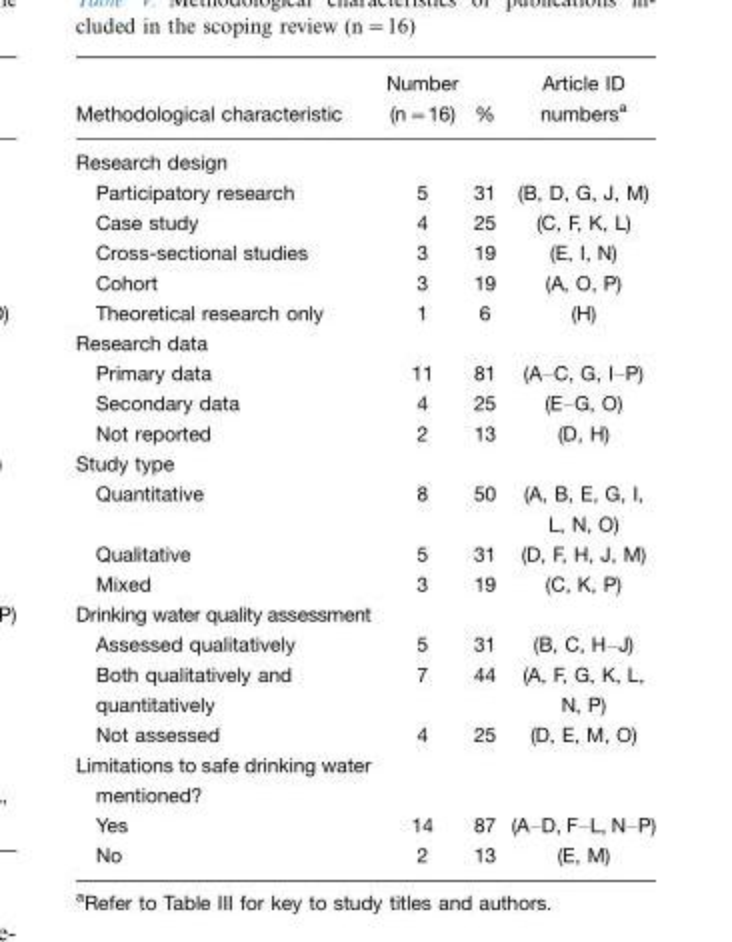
<table><thead><tr><td>Methodological characteristic</td><td>Number (n=16)</td><td>%</td><td>Article ID numbers<sup>a</sup></td></tr></thead><tbody><tr><td colspan="4">Research design</td></tr><tr><td>Participatory research</td><td>5</td><td>31</td><td>(B, D, G, J, M)</td></tr><tr><td>Case study</td><td>4</td><td>25</td><td>(C, F, K, L)</td></tr><tr><td>Cross-sectional studies</td><td>3</td><td>19</td><td>(E, I, N)</td></tr><tr><td>Cohort</td><td>3</td><td>19</td><td>(A, O, P)</td></tr><tr><td>Theoretical research only</td><td>1</td><td>6</td><td>(H)</td></tr><tr><td colspan="4">Research data</td></tr><tr><td>Primary data</td><td>11</td><td>81</td><td>(A–C, G, I–P)</td></tr><tr><td>Secondary data</td><td>4</td><td>25</td><td>(E–G, O)</td></tr><tr><td>Not reported</td><td>2</td><td>13</td><td>(D, H)</td></tr><tr><td colspan="4">Study type</td></tr><tr><td>Quantitative</td><td>8</td><td>50</td><td>(A, B, E, G, I, L, N, O)</td></tr><tr><td>Qualitative</td><td>5</td><td>31</td><td>(D, F, H, J, M)</td></tr><tr><td>Mixed</td><td>3</td><td>19</td><td>(C, K, P)</td></tr><tr><td colspan="4">Drinking water quality assessment</td></tr><tr><td>Assessed qualitatively</td><td>5</td><td>31</td><td>(B, C, H–J)</td></tr><tr><td>Both qualitatively and quantitatively</td><td>7</td><td>44</td><td>(A, F, G, K, L, N, P)</td></tr><tr><td>Not assessed</td><td>4</td><td>25</td><td>(D, E, M, O)</td></tr><tr><td colspan="4">Limitations to safe drinking water mentioned?</td></tr><tr><td>Yes</td><td>14</td><td>87</td><td>(A–D, F–L, N–P)</td></tr><tr><td>No</td><td>2</td><td>13</td><td>(E, M)</td></tr></tbody></table>